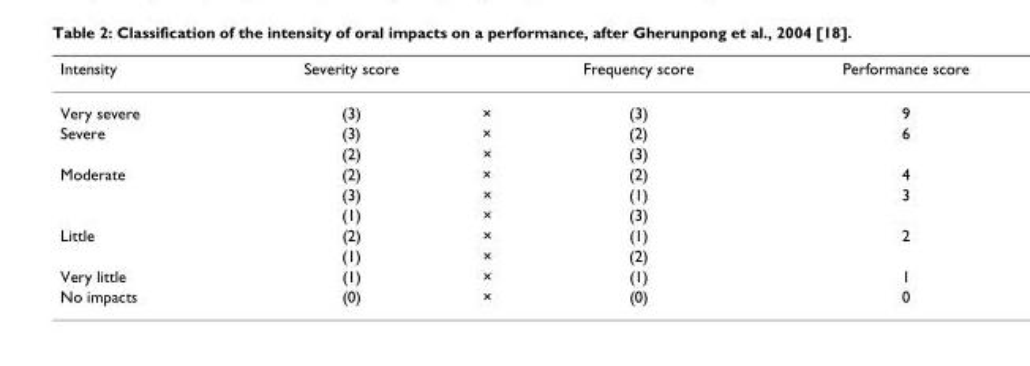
<table><thead><tr><td>Intensity</td><td>Severity score</td><td></td><td>Frequency score</td><td>Performance score</td></tr></thead><tbody><tr><td>Very severe</td><td>(3)</td><td>×</td><td>(3)</td><td>9</td></tr><tr><td rowspan="2">Severe</td><td>(3)</td><td>×</td><td>(2)</td><td>6</td></tr><tr><td>(2)</td><td>×</td><td>(3)</td><td></td></tr><tr><td rowspan="3">Moderate</td><td>(2)</td><td>×</td><td>(2)</td><td>4</td></tr><tr><td>(3)</td><td>×</td><td>(1)</td><td>3</td></tr><tr><td>(1)</td><td>×</td><td>(3)</td><td></td></tr><tr><td rowspan="2">Little</td><td>(2)</td><td>×</td><td>(1)</td><td>2</td></tr><tr><td>(1)</td><td>×</td><td>(2)</td><td></td></tr><tr><td>Very little</td><td>(1)</td><td>×</td><td>(1)</td><td>1</td></tr><tr><td>No impacts</td><td>(0)</td><td>×</td><td>(0)</td><td>0</td></tr></tbody></table>